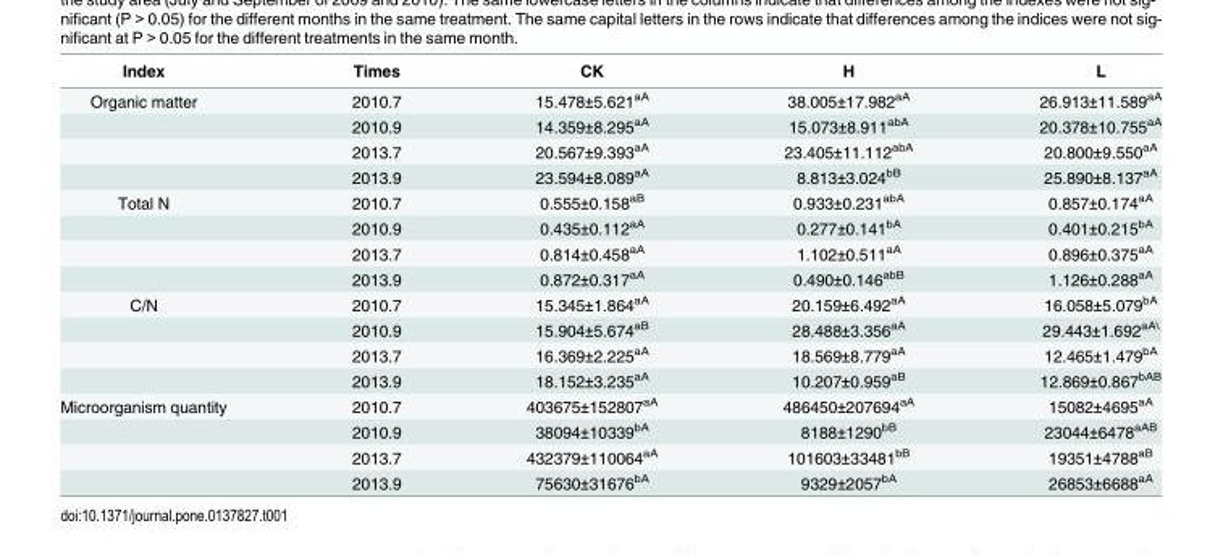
<table><thead><tr><td>Index</td><td>Times</td><td>CK</td><td>H</td><td>L</td></tr></thead><tbody><tr><td rowspan="4">Organic matter</td><td>2010.7</td><td>15.478±5.621<sup>aA</sup></td><td>38.005±17.982<sup>aA</sup></td><td>26.913±11.589<sup>aA</sup></td></tr><tr><td>2010.9</td><td>14.359±8.295<sup>aA</sup></td><td>15.073±8.911<sup>abA</sup></td><td>20.378±10.755<sup>aA</sup></td></tr><tr><td>2013.7</td><td>20.567±9.393<sup>aA</sup></td><td>23.405±11.112<sup>abA</sup></td><td>20.800±9.550<sup>aA</sup></td></tr><tr><td>2013.9</td><td>23.594±8.089<sup>aA</sup></td><td>8.813±3.024<sup>bB</sup></td><td>25.890±8.137<sup>aA</sup></td></tr><tr><td rowspan="4">Total N</td><td>2010.7</td><td>0.555±0.158<sup>aB</sup></td><td>0.933±0.231<sup>abA</sup></td><td>0.857±0.174<sup>aA</sup></td></tr><tr><td>2010.9</td><td>0.435±0.112<sup>aA</sup></td><td>0.277±0.141<sup>bA</sup></td><td>0.401±0.215<sup>bA</sup></td></tr><tr><td>2013.7</td><td>0.814±0.458<sup>aA</sup></td><td>1.102±0.511<sup>aA</sup></td><td>0.896±0.375<sup>aA</sup></td></tr><tr><td>2013.9</td><td>0.872±0.317<sup>aA</sup></td><td>0.490±0.146<sup>abB</sup></td><td>1.126±0.288<sup>aA</sup></td></tr><tr><td rowspan="4">C/N</td><td>2010.7</td><td>15.345±1.864<sup>aA</sup></td><td>20.159±6.492<sup>aA</sup></td><td>16.058±5.079<sup>bA</sup></td></tr><tr><td>2010.9</td><td>15.904±5.674<sup>aB</sup></td><td>28.488±3.356<sup>aA</sup></td><td>29.443±1.692<sup>aA\</sup></td></tr><tr><td>2013.7</td><td>16.369±2.225<sup>aA</sup></td><td>18.569±8.779<sup>aA</sup></td><td>12.465±1.479<sup>bA</sup></td></tr><tr><td>2013.9</td><td>18.152±3.235<sup>aA</sup></td><td>10.207±0.959<sup>aB</sup></td><td>12.869±0.867<sup>bAB</sup></td></tr><tr><td rowspan="4">Microorganism quantity</td><td>2010.7</td><td>403675±152807<sup>aA</sup></td><td>486450±207694<sup>aA</sup></td><td>15082±4695<sup>aA</sup></td></tr><tr><td>2010.9</td><td>38094±10339<sup>bA</sup></td><td>8188±1290<sup>bB</sup></td><td>23044±6478<sup>aAB</sup></td></tr><tr><td>2013.7</td><td>432379±110064<sup>aA</sup></td><td>101603±33481<sup>bB</sup></td><td>19351±4788<sup>aB</sup></td></tr><tr><td>2013.9</td><td>75630±31676<sup>bA</sup></td><td>9329±2057<sup>bA</sup></td><td>26853±6688<sup>aA</sup></td></tr></tbody></table>